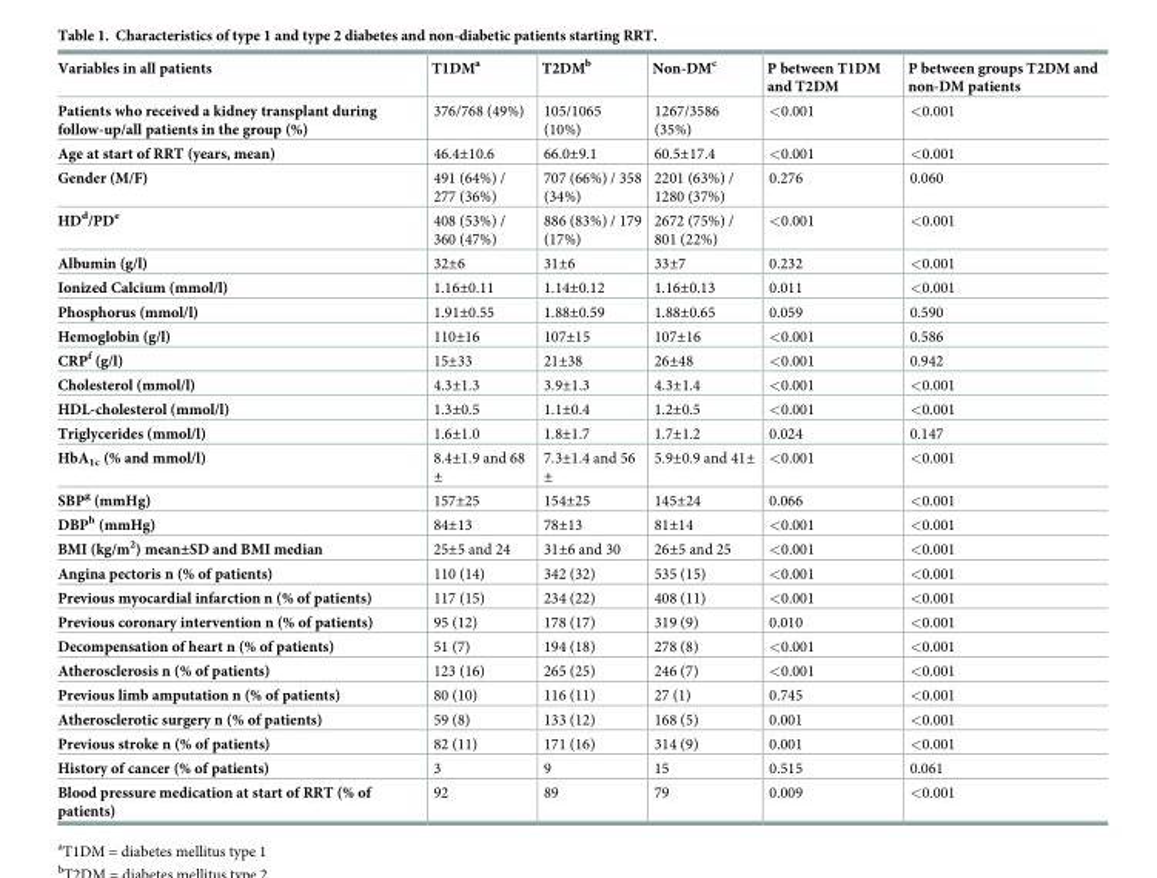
<table><thead><tr><td>Variables in all patients</td><td>T1DM<sup>a</sup></td><td>T2DM<sup>b</sup></td><td>Non-DM<sup>c</sup></td><td>P between T1DM and T2DM</td><td>P between groups T2DM and non-DM patients</td></tr></thead><tbody><tr><td>Patients who received a kidney transplant during follow-up/all patients in the group (%)</td><td>376/768 (49%)</td><td>105/1065 (10%)</td><td>1267/3586 (35%)</td><td>&lt;0.001</td><td>&lt;0.001</td></tr><tr><td>Age at start of RRT (years, mean)</td><td>46.4±10.6</td><td>66.0±9.1</td><td>60.5±17.4</td><td>&lt;0.001</td><td>&lt;0.001</td></tr><tr><td>Gender (M/F)</td><td>491 (64%) / 277 (36%)</td><td>707 (66%) / 358 (34%)</td><td>2201 (63%) / 1280 (37%)</td><td>0.276</td><td>0.060</td></tr><tr><td>HD<sup>d</sup>/PD<sup>e</sup></td><td>408 (53%) / 360 (47%)</td><td>886 (83%) / 179 (17%)</td><td>2672 (75%) / 801 (22%)</td><td>&lt;0.001</td><td>&lt;0.001</td></tr><tr><td>Albumin (g/l)</td><td>32±6</td><td>31±6</td><td>33±7</td><td>0.232</td><td>&lt;0.001</td></tr><tr><td>Ionized Calcium (mmol/l)</td><td>1.16±0.11</td><td>1.14±0.12</td><td>1.16±0.13</td><td>0.011</td><td>&lt;0.001</td></tr><tr><td>Phosphorus (mmol/l)</td><td>1.91±0.55</td><td>1.88±0.59</td><td>1.88±0.65</td><td>0.059</td><td>0.590</td></tr><tr><td>Hemoglobin (g/l)</td><td>110±16</td><td>107±15</td><td>107±16</td><td>&lt;0.001</td><td>0.586</td></tr><tr><td>CRP<sup>f</sup> (g/l)</td><td>15±33</td><td>21±38</td><td>26±48</td><td>&lt;0.001</td><td>0.942</td></tr><tr><td>Cholesterol (mmol/l)</td><td>4.3±1.3</td><td>3.9±1.3</td><td>4.3±1.4</td><td>&lt;0.001</td><td>&lt;0.001</td></tr><tr><td>HDL-cholesterol (mmol/l)</td><td>1.3±0.5</td><td>1.1±0.4</td><td>1.2±0.5</td><td>&lt;0.001</td><td>&lt;0.001</td></tr><tr><td>Triglycerides (mmol/l)</td><td>1.6±1.0</td><td>1.8±1.7</td><td>1.7±1.2</td><td>0.024</td><td>0.147</td></tr><tr><td>HbA<sub>1c</sub> (% and mmol/l)</td><td>8.4±1.9 and 68 ±</td><td>7.3±1.4 and 56 ±</td><td>5.9±0.9 and 41±</td><td>&lt;0.001</td><td>&lt;0.001</td></tr><tr><td>SBP<sup>g</sup> (mmHg)</td><td>157±25</td><td>154±25</td><td>145±24</td><td>0.066</td><td>&lt;0.001</td></tr><tr><td>DBP<sup>h</sup> (mmHg)</td><td>84±13</td><td>78±13</td><td>81±14</td><td>&lt;0.001</td><td>&lt;0.001</td></tr><tr><td>BMI (kg/m<sup>2</sup>) mean±SD and BMI median</td><td>25±5 and 24</td><td>31±6 and 30</td><td>26±5 and 25</td><td>&lt;0.001</td><td>&lt;0.001</td></tr><tr><td>Angina pectoris n (% of patients)</td><td>110 (14)</td><td>342 (32)</td><td>535 (15)</td><td>&lt;0.001</td><td>&lt;0.001</td></tr><tr><td>Previous myocardial infarction n (% of patients)</td><td>117 (15)</td><td>234 (22)</td><td>408 (11)</td><td>&lt;0.001</td><td>&lt;0.001</td></tr><tr><td>Previous coronary intervention n (% of patients)</td><td>95 (12)</td><td>178 (17)</td><td>319 (9)</td><td>0.010</td><td>&lt;0.001</td></tr><tr><td>Decompensation of heart n (% of patients)</td><td>51 (7)</td><td>194 (18)</td><td>278 (8)</td><td>&lt;0.001</td><td>&lt;0.001</td></tr><tr><td>Atherosclerosis n (% of patients)</td><td>123 (16)</td><td>265 (25)</td><td>246 (7)</td><td>&lt;0.001</td><td>&lt;0.001</td></tr><tr><td>Previous limb amputation n (% of patients)</td><td>80 (10)</td><td>116 (11)</td><td>27 (1)</td><td>0.745</td><td>&lt;0.001</td></tr><tr><td>Atherosclerotic surgery n (% of patients)</td><td>59 (8)</td><td>133 (12)</td><td>168 (5)</td><td>0.001</td><td>&lt;0.001</td></tr><tr><td>Previous stroke n (% of patients)</td><td>82 (11)</td><td>171 (16)</td><td>314 (9)</td><td>0.001</td><td>&lt;0.001</td></tr><tr><td>History of cancer (% of patients)</td><td>3</td><td>9</td><td>15</td><td>0.515</td><td>0.061</td></tr><tr><td>Blood pressure medication at start of RRT (% of patients)</td><td>92</td><td>89</td><td>79</td><td>0.009</td><td>&lt;0.001</td></tr></tbody></table>